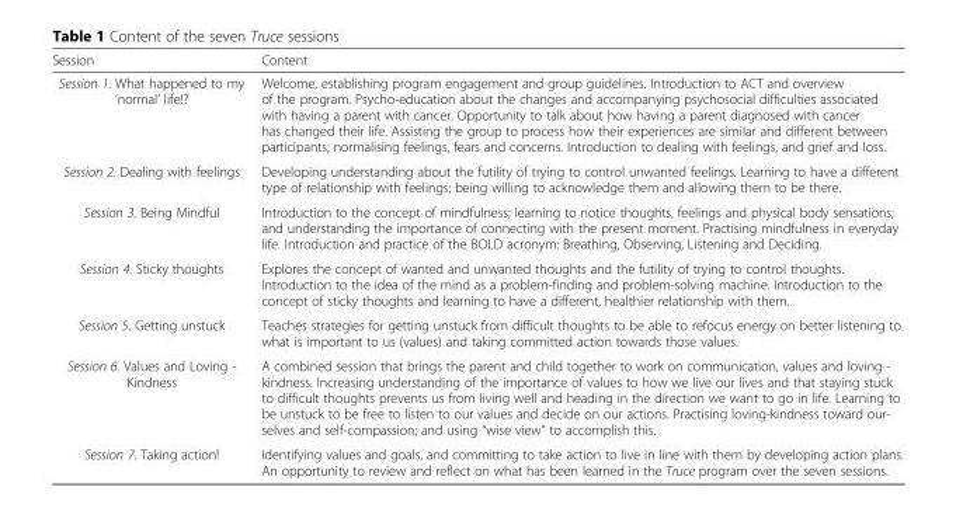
<table><thead><tr><td>Session</td><td>Content</td></tr></thead><tbody><tr><td>Session 1. What happened to my ‘normal’ life!?</td><td>Welcome, establishing program engagement and group guidelines. Introduction to ACT and overview of the program. Psycho-education about the changes and accompanying psychosocial difficulties associated with having a parent with cancer. Opportunity to talk about how having a parent diagnosed with cancer has changed their life. Assisting the group to process how their experiences are similar and different between participants; normalising feelings, fears and concerns. Introduction to dealing with feelings, and grief and loss.</td></tr><tr><td>Session 2. Dealing with feelings</td><td>Developing understanding about the futility of trying to control unwanted feelings. Learning to have a different type of relationship with feelings; being willing to acknowledge them and allowing them to be there.</td></tr><tr><td>Session 3. Being Mindful</td><td>Introduction to the concept of mindfulness; learning to notice thoughts, feelings and physical body sensations; and understanding the importance of connecting with the present moment. Practising mindfulness in everyday life. Introduction and practice of the BOLD acronym: Breathing, Observing, Listening and Deciding.</td></tr><tr><td>Session 4. Sticky thoughts</td><td>Explores the concept of wanted and unwanted thoughts and the futility of trying to control thoughts. Introduction to the idea of the mind as a problem-finding and problem-solving machine. Introduction to the concept of sticky thoughts and learning to have a different, healthier relationship with them.</td></tr><tr><td>Session 5. Getting unstuck</td><td>Teaches strategies for getting unstuck from difficult thoughts to be able to refocus energy on better listening to what is important to us (values) and taking committed action towards those values.</td></tr><tr><td>Session 6. Values and Loving - Kindness</td><td>A combined session that brings the parent and child together to work on communication, values and loving - kindness. Increasing understanding of the importance of values to how we live our lives and that staying stuck to difficult thoughts prevents us from living well and heading in the direction we want to go in life. Learning to be unstuck to be free to listen to our values and decide on our actions. Practising loving-kindness toward our- selves and self-compassion; and using “wise view” to accomplish this.</td></tr><tr><td>Session 7. Taking action!</td><td>Identifying values and goals, and committing to take action to live in line with them by developing action plans. An opportunity to review and reflect on what has been learned in the Truce program over the seven sessions.</td></tr></tbody></table>